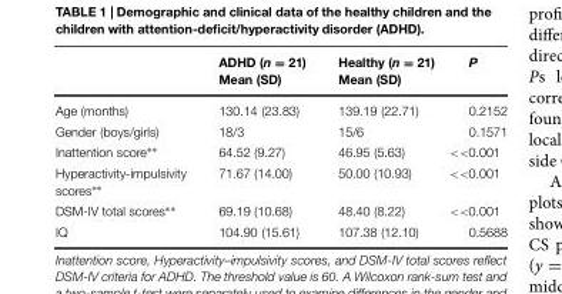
<table><thead><tr><td></td><td>ADHD (n = 21) Mean (SD)</td><td>Healthy (n = 21) Mean (SD)</td><td>P</td></tr></thead><tbody><tr><td>Age (months)</td><td>130.14 (23.83)</td><td>139.19 (22.71)</td><td>0.2152</td></tr><tr><td>Gender (boys/girls)</td><td>18/3</td><td>15/6</td><td>0.1571</td></tr><tr><td>Inattention score∗∗</td><td>64.52 (9.27)</td><td>46.95 (5.63)</td><td>&lt;&lt;0.001</td></tr><tr><td>Hyperactivity-impulsivity scores∗∗</td><td>71.67 (14.00)</td><td>50.00 (10.93)</td><td>&lt;&lt;0.001</td></tr><tr><td>DSM-IV total scores∗∗</td><td>69.19 (10.68)</td><td>48.40 (8.22)</td><td>&lt;&lt;0.001</td></tr><tr><td>IQ</td><td>104.90 (15.61)</td><td>107.38 (12.10)</td><td>0.5688</td></tr></tbody></table>